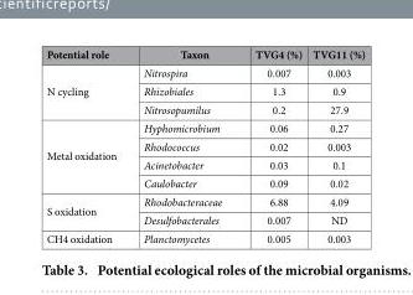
<table><thead><tr><td>Potential role</td><td>Taxon</td><td>TVG4 (%)</td><td>TVG11 (%)</td></tr></thead><tbody><tr><td rowspan="3">N cycling</td><td>Nitrospira</td><td>0.007</td><td>0.003</td></tr><tr><td>Rhizobiales</td><td>1.3</td><td>0.9</td></tr><tr><td>Nitrosopumilus</td><td>0.2</td><td>27.9</td></tr><tr><td rowspan="4">Metal oxidation</td><td>Hyphomicrobium</td><td>0.06</td><td>0.27</td></tr><tr><td>Rhodococcus</td><td>0.02</td><td>0.003</td></tr><tr><td>Acinetobacter</td><td>0.03</td><td>0.1</td></tr><tr><td>Caulobacter</td><td>0.09</td><td>0.02</td></tr><tr><td rowspan="2">S oxidation</td><td>Rhodobacteraceae</td><td>6.88</td><td>4.09</td></tr><tr><td>Desulfobacterales</td><td>0.007</td><td>ND</td></tr><tr><td>CH4 oxidation</td><td>Planctomycetes</td><td>0.005</td><td>0.003</td></tr></tbody></table>